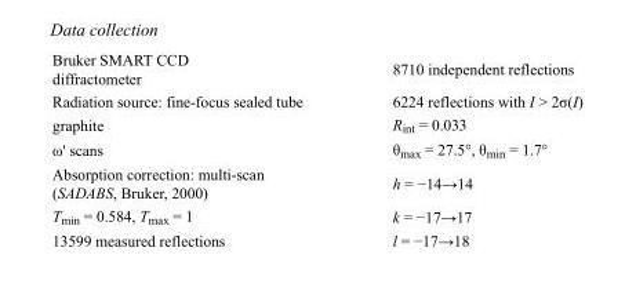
<table><tbody><tr><td>Bruker SMART CCD diffractometer</td><td>8710 independent reflections</td></tr><tr><td>Radiation source: fine-focus sealed tube</td><td>6224 reflections with I &gt; 2σ(I)</td></tr><tr><td>graphite</td><td>R<sub>int</sub> = 0.033</td></tr><tr><td>ω&#x27; scans</td><td>θ<sub>max</sub> = 27.5°, θ<sub>min</sub> = 1.7°</td></tr><tr><td>Absorption correction: multi-scan (SADABS, Bruker, 2000)</td><td>h = −14→14</td></tr><tr><td>T<sub>min</sub> = 0.584, T<sub>max</sub> = 1</td><td>k = −17→17</td></tr><tr><td>13599 measured reflections</td><td>l = −17→18</td></tr></tbody></table>